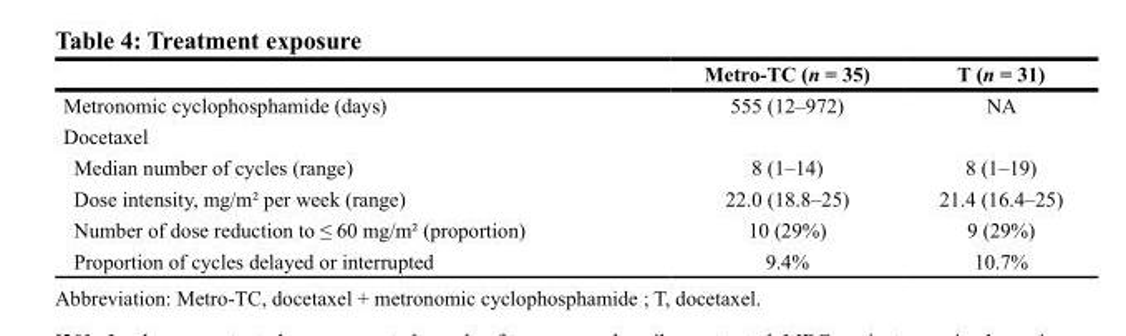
<table><thead><tr><td></td><td>Metro-TC (n = 35)</td><td>T (n = 31)</td></tr></thead><tbody><tr><td>Metronomic cyclophosphamide (days)</td><td>555 (12–972)</td><td>NA</td></tr><tr><td colspan="3">Docetaxel</td></tr><tr><td>Median number of cycles (range)</td><td>8 (1–14)</td><td>8 (1–19)</td></tr><tr><td>Dose intensity, mg/m² per week (range)</td><td>22.0 (18.8–25)</td><td>21.4 (16.4–25)</td></tr><tr><td>Number of dose reduction to ≤ 60 mg/m² (proportion)</td><td>10 (29%)</td><td>9 (29%)</td></tr><tr><td>Proportion of cycles delayed or interrupted</td><td>9.4%</td><td>10.7%</td></tr></tbody></table>